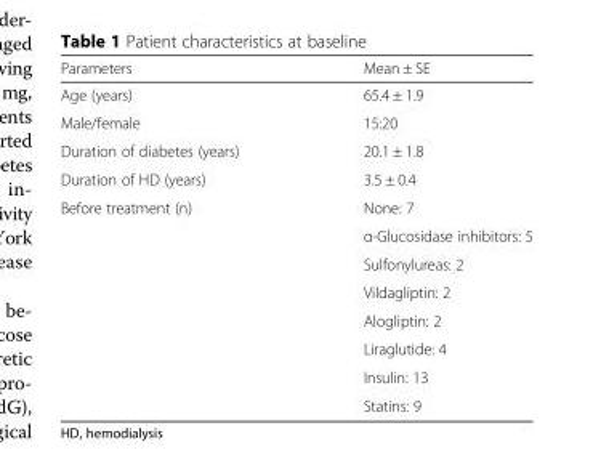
<table><thead><tr><td>Parameters</td><td>Mean ± SE</td></tr></thead><tbody><tr><td>Age (years)</td><td>65.4 ± 1.9</td></tr><tr><td>Male/female</td><td>15:20</td></tr><tr><td>Duration of diabetes (years)</td><td>20.1 ± 1.8</td></tr><tr><td>Duration of HD (years)</td><td>3.5 ± 0.4</td></tr><tr><td rowspan="8">Before treatment (n)</td><td>None: 7</td></tr><tr><td>α-Glucosidase inhibitors: 5</td></tr><tr><td>Sulfonylureas: 2</td></tr><tr><td>Vildagliptin: 2</td></tr><tr><td>Alogliptin: 2</td></tr><tr><td>Liraglutide: 4</td></tr><tr><td>Insulin: 13</td></tr><tr><td>Statins: 9</td></tr></tbody></table>